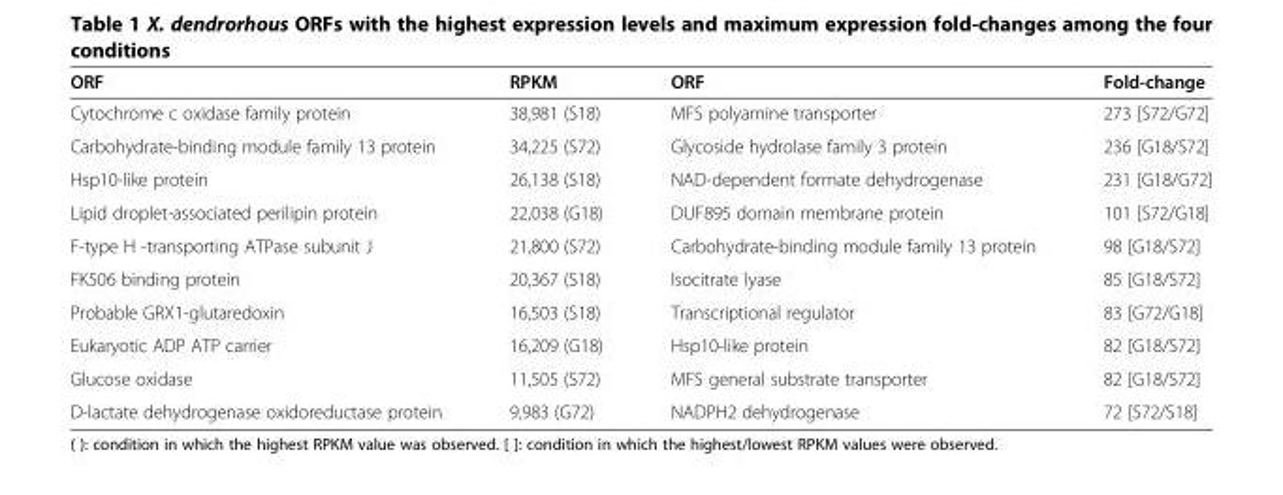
<table><thead><tr><td>ORF</td><td>RPKM</td><td>ORF</td><td>Fold-change</td></tr></thead><tbody><tr><td>Cytochrome c oxidase family protein</td><td>38,981 (S18)</td><td>MFS polyamine transporter</td><td>273 [S72/G72]</td></tr><tr><td>Carbohydrate-binding module family 13 protein</td><td>34,225 (S72)</td><td>Glycoside hydrolase family 3 protein</td><td>236 [G18/S72]</td></tr><tr><td>Hsp10-like protein</td><td>26,138 (S18)</td><td>NAD-dependent formate dehydrogenase</td><td>231 [G18/G72]</td></tr><tr><td>Lipid droplet-associated perilipin protein</td><td>22,038 (G18)</td><td>DUF895 domain membrane protein</td><td>101 [S72/G18]</td></tr><tr><td>F-type H -transporting ATPase subunit J</td><td>21,800 (S72)</td><td>Carbohydrate-binding module family 13 protein</td><td>98 [G18/S72]</td></tr><tr><td>FK506 binding protein</td><td>20,367 (S18)</td><td>Isocitrate lyase</td><td>85 [G18/S72]</td></tr><tr><td>Probable GRX1-glutaredoxin</td><td>16,503 (S18)</td><td>Transcriptional regulator</td><td>83 [G72/G18]</td></tr><tr><td>Eukaryotic ADP ATP carrier</td><td>16,209 (G18)</td><td>Hsp10-like protein</td><td>82 [G18/S72]</td></tr><tr><td>Glucose oxidase</td><td>11,505 (S72)</td><td>MFS general substrate transporter</td><td>82 [G18/S72]</td></tr><tr><td>D-lactate dehydrogenase oxidoreductase protein</td><td>9,983 (G72)</td><td>NADPH2 dehydrogenase</td><td>72 [S72/S18]</td></tr></tbody></table>